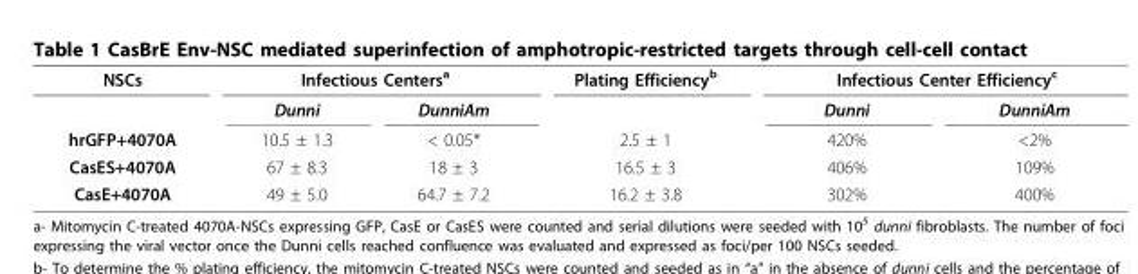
<table><tbody><tr><td rowspan="2">NSCs</td><td colspan="2">Infectious Centers<sup>a</sup></td><td>Plating Efficiency<sup>b</sup></td><td colspan="2">Infectious Center Efficiency<sup>c</sup></td></tr><tr><td>Dunni</td><td>DunniAm</td><td></td><td>Dunni</td><td>DunniAm</td></tr><tr><td>hrGFP+4070A</td><td>10.5 ± 1.3</td><td>&lt; 0.05*</td><td>2.5 ± 1</td><td>420%</td><td>&lt;2%</td></tr><tr><td>CasES+4070A</td><td>67 ± 8.3</td><td>18 ± 3</td><td>16.5 ± 3</td><td>406%</td><td>109%</td></tr><tr><td>CasE+4070A</td><td>49 ± 5.0</td><td>64.7 ± 7.2</td><td>16.2 ± 3.8</td><td>302%</td><td>400%</td></tr></tbody></table>